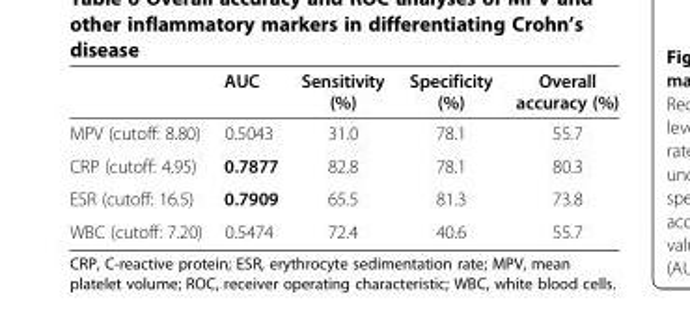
<table><thead><tr><td></td><td>AUC</td><td>Sensitivity (%)</td><td>Specificity (%)</td><td>Overall accuracy (%)</td></tr></thead><tbody><tr><td>MPV (cutoff: 8.80)</td><td>0.5043</td><td>31.0</td><td>78.1</td><td>55.7</td></tr><tr><td>CRP (cutoff: 4.95)</td><td>0.7877</td><td>82.8</td><td>78.1</td><td>80.3</td></tr><tr><td>ESR (cutoff: 16.5)</td><td>0.7909</td><td>65.5</td><td>81.3</td><td>73.8</td></tr><tr><td>WBC (cutoff: 7.20)</td><td>0.5474</td><td>72.4</td><td>40.6</td><td>55.7</td></tr></tbody></table>